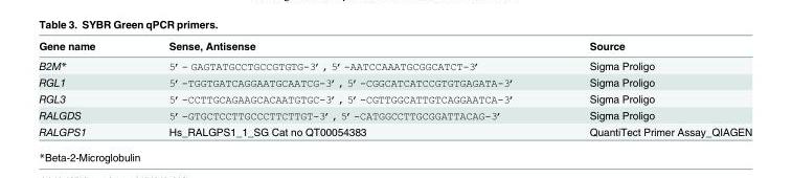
<table><thead><tr><td>Gene name</td><td>Sense, Antisense</td><td>Source</td></tr></thead><tbody><tr><td>B2M*</td><td>5’- GAGTATGCCTGCCGTGTG-3’, 5’-AATCCAAATGCGGCATCT-3’</td><td>Sigma Proligo</td></tr><tr><td>RGL1</td><td>5’-TGGTGATCAGGAATGCAATCG-3’, 5’-CGGCATCATCCGTGTGAGATA-3’</td><td>Sigma Proligo</td></tr><tr><td>RGL3</td><td>5’-CCTTGCAGAAGCACAATGTGC-3’, 5’-CGTTGGCATTGTCAGGAATCA-3’</td><td>Sigma Proligo</td></tr><tr><td>RALGDS</td><td>5’-GTGCTCCTTGCCCTTCTTGT-3’, 5’-CATGGCCTTGCGGATTACAG-3’</td><td>Sigma Proligo</td></tr><tr><td>RALGPS1</td><td>Hs_RALGPS1_1_SG Cat no QT00054383</td><td>QuantiTect Primer Assay_QIAGEN</td></tr></tbody></table>